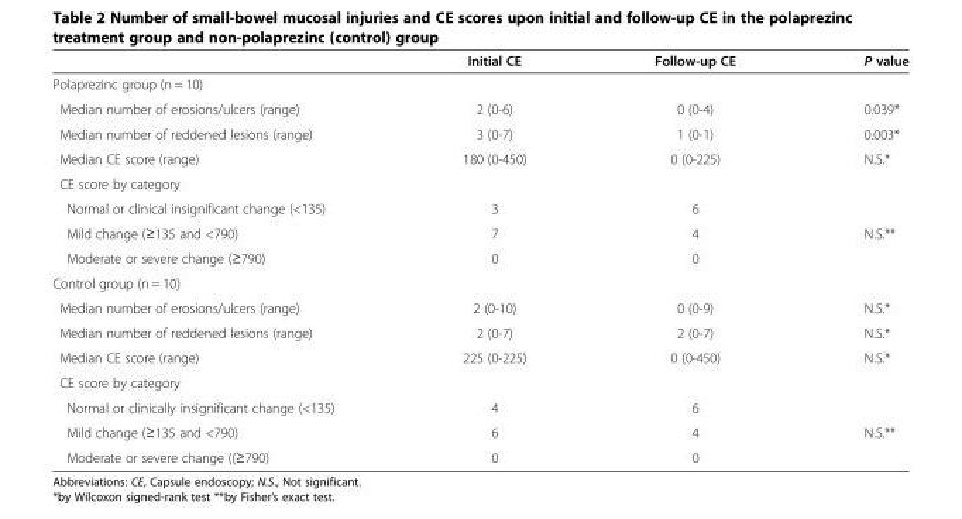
<table><thead><tr><td></td><td>Initial CE</td><td>Follow-up CE</td><td>P value</td></tr></thead><tbody><tr><td colspan="4">Polaprezinc group (n = 10)</td></tr><tr><td>Median number of erosions/ulcers (range)</td><td>2 (0-6)</td><td>0 (0-4)</td><td>0.039*</td></tr><tr><td>Median number of reddened lesions (range)</td><td>3 (0-7)</td><td>1 (0-1)</td><td>0.003*</td></tr><tr><td>Median CE score (range)</td><td>180 (0-450)</td><td>0 (0-225)</td><td>N.S.*</td></tr><tr><td colspan="4">CE score by category</td></tr><tr><td>Normal or clinical insignificant change (&lt;135)</td><td>3</td><td>6</td><td></td></tr><tr><td>Mild change (≥135 and &lt;790)</td><td>7</td><td>4</td><td>N.S.**</td></tr><tr><td>Moderate or severe change (≥790)</td><td>0</td><td>0</td><td></td></tr><tr><td colspan="4">Control group (n = 10)</td></tr><tr><td>Median number of erosions/ulcers (range)</td><td>2 (0-10)</td><td>0 (0-9)</td><td>N.S.*</td></tr><tr><td>Median number of reddened lesions (range)</td><td>2 (0-7)</td><td>2 (0-7)</td><td>N.S.*</td></tr><tr><td>Median CE score (range)</td><td>225 (0-225)</td><td>0 (0-450)</td><td>N.S.*</td></tr><tr><td colspan="4">CE score by category</td></tr><tr><td>Normal or clinically insignificant change (&lt;135)</td><td>4</td><td>6</td><td></td></tr><tr><td>Mild change (≥135 and &lt;790)</td><td>6</td><td>4</td><td>N.S.**</td></tr><tr><td>Moderate or severe change ((≥790)</td><td>0</td><td>0</td><td></td></tr></tbody></table>